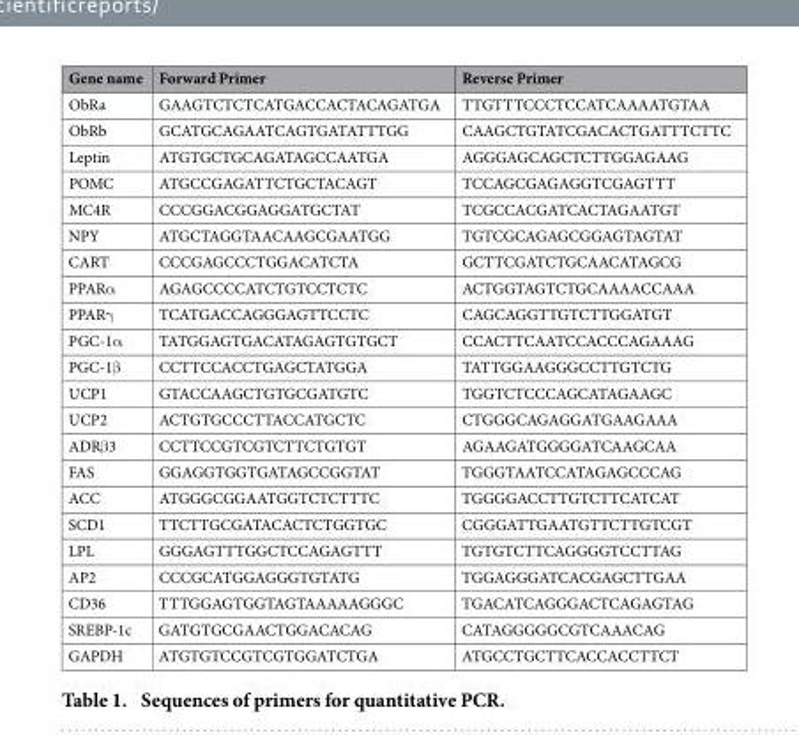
<table><thead><tr><td>Gene name</td><td>Forward Primer</td><td>Reverse Primer</td></tr></thead><tbody><tr><td>ObRa</td><td>GAAGTCTCTCATGACCACTACAGATGA</td><td>TTGTTTCCCTCCATCAAAATGTAA</td></tr><tr><td>ObRb</td><td>GCATGCAGAATCAGTGATATTTGG</td><td>CAAGCTGTATCGACACTGATTTCTTC</td></tr><tr><td>Leptin</td><td>ATGTGCTGCAGATAGCCAATGA</td><td>AGGGAGCAGCTCTTGGAGAAG</td></tr><tr><td>POMC</td><td>ATGCCGAGATTCTGCTACAGT</td><td>TCCAGCGAGAGGTCGAGTTT</td></tr><tr><td>MC4R</td><td>CCCGGACGGAGGATGCTAT</td><td>TCGCCACGATCACTAGAATGT</td></tr><tr><td>NPY</td><td>ATGCTAGGTAACAAGCGAATGG</td><td>TGTCGCAGAGCGGAGTAGTAT</td></tr><tr><td>CART</td><td>CCCGAGCCCTGGACATCTA</td><td>GCTTCGATCTGCAACATAGCG</td></tr><tr><td>PPARα</td><td>AGAGCCCCATCTGTCCTCTC</td><td>ACTGGTAGTCTGCAAAACCAAA</td></tr><tr><td>PPARγ</td><td>TCATGACCAGGGAGTTCCTC</td><td>CAGCAGGTTGTCTTGGATGT</td></tr><tr><td>PGC-1α</td><td>TATGGAGTGACATAGAGTGTGCT</td><td>CCACTTCAATCCACCCAGAAAG</td></tr><tr><td>PGC-1β</td><td>CCTTCCACCTGAGCTATGGA</td><td>TATTGGAAGGGCCTTGTCTG</td></tr><tr><td>UCP1</td><td>GTACCAAGCTGTGCGATGTC</td><td>TGGTCTCCCAGCATAGAAGC</td></tr><tr><td>UCP2</td><td>ACTGTGCCCTTACCATGCTC</td><td>CTGGGCAGAGGATGAAGAAA</td></tr><tr><td>ADRβ 3</td><td>CCTTCCGTCGTCTTCTGTGT</td><td>AGAAGATGGGGATCAAGCAA</td></tr><tr><td>FAS</td><td>GGAGGTGGTGATAGCCGGTAT</td><td>TGGGTAATCCATAGAGCCCAG</td></tr><tr><td>ACC</td><td>ATGGGCGGAATGGTCTCTTTC</td><td>TGGGGACCTTGTCTTCATCAT</td></tr><tr><td>SCD1</td><td>TTCTTGCGATACACTCTGGTGC</td><td>CGGGATTGAATGTTCTTGTCGT</td></tr><tr><td>LPL</td><td>GGGAGTTTGGCTCCAGAGTTT</td><td>TGTGTCTTCAGGGGTCCTTAG</td></tr><tr><td>AP2</td><td>CCCGCATGGAGGGTGTATG</td><td>TGGAGGGATCACGAGCTTGAA</td></tr><tr><td>CD36</td><td>TTTGGAGTGGTAGTAAAAAGGGC</td><td>TGACATCAGGGACTCAGAGTAG</td></tr><tr><td>SREBP-1c</td><td>GATGTGCGAACTGGACACAG</td><td>CATAGGGGGCGTCAAACAG</td></tr><tr><td>GAPDH</td><td>ATGTGTCCGTCGTGGATCTGA</td><td>ATGCCTGCTTCACCACCTTCT</td></tr></tbody></table>